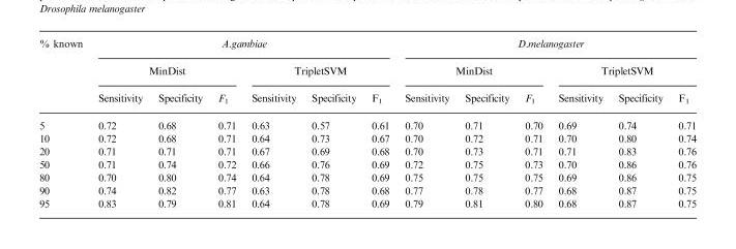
<table><thead><tr><td rowspan="3">% known</td><td colspan="6">A.gambiae</td><td colspan="6">D.melanogaster</td></tr><tr><td colspan="3">MinDist</td><td colspan="3">TripletSVM</td><td colspan="3">MinDist</td><td colspan="3">TripletSVM</td></tr><tr><td>Sensitivity</td><td>Specificity</td><td>F<sub>1</sub></td><td>Sensitivity</td><td>Specificity</td><td>F<sub>1</sub></td><td>Sensitivity</td><td>Specificity</td><td>F<sub>1</sub></td><td>Sensitivity</td><td>Specificity</td><td>F<sub>1</sub></td></tr></thead><tbody><tr><td>5</td><td>0.72</td><td>0.68</td><td>0.71</td><td>0.63</td><td>0.57</td><td>0.61</td><td>0.70</td><td>0.71</td><td>0.70</td><td>0.69</td><td>0.74</td><td>0.71</td></tr><tr><td>10</td><td>0.72</td><td>0.68</td><td>0.71</td><td>0.64</td><td>0.73</td><td>0.67</td><td>0.70</td><td>0.72</td><td>0.71</td><td>0.70</td><td>0.80</td><td>0.74</td></tr><tr><td>20</td><td>0.71</td><td>0.71</td><td>0.71</td><td>0.67</td><td>0.69</td><td>0.68</td><td>0.70</td><td>0.73</td><td>0.71</td><td>0.71</td><td>0.83</td><td>0.76</td></tr><tr><td>50</td><td>0.71</td><td>0.74</td><td>0.72</td><td>0.66</td><td>0.76</td><td>0.69</td><td>0.72</td><td>0.75</td><td>0.73</td><td>0.70</td><td>0.86</td><td>0.76</td></tr><tr><td>80</td><td>0.70</td><td>0.80</td><td>0.74</td><td>0.64</td><td>0.78</td><td>0.69</td><td>0.75</td><td>0.75</td><td>0.75</td><td>0.69</td><td>0.86</td><td>0.75</td></tr><tr><td>90</td><td>0.74</td><td>0.82</td><td>0.77</td><td>0.63</td><td>0.78</td><td>0.68</td><td>0.77</td><td>0.78</td><td>0.77</td><td>0.68</td><td>0.87</td><td>0.75</td></tr><tr><td>95</td><td>0.83</td><td>0.79</td><td>0.81</td><td>0.64</td><td>0.78</td><td>0.69</td><td>0.79</td><td>0.81</td><td>0.80</td><td>0.68</td><td>0.87</td><td>0.75</td></tr></tbody></table>